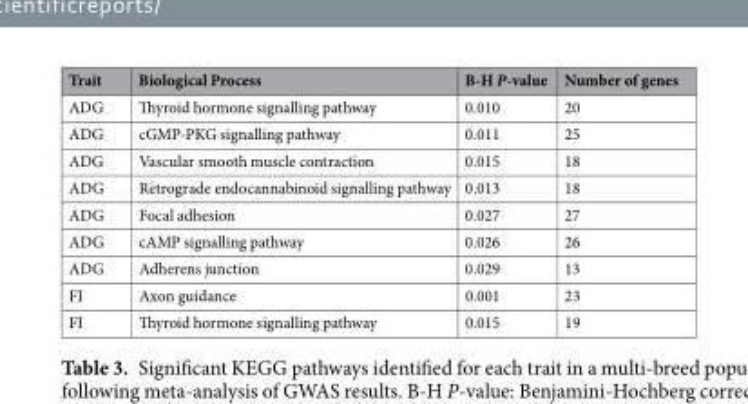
<table><thead><tr><td>Trait</td><td>Biological Process</td><td>B-H P-value</td><td>Number of genes</td></tr></thead><tbody><tr><td>ADG</td><td>Thyroid hormone signalling pathway</td><td>0.010</td><td>20</td></tr><tr><td>ADG</td><td>cGMP-PKG signalling pathway</td><td>0.011</td><td>25</td></tr><tr><td>ADG</td><td>Vascular smooth muscle contraction</td><td>0.015</td><td>18</td></tr><tr><td>ADG</td><td>Retrograde endocannabinoid signalling pathway</td><td>0.013</td><td>18</td></tr><tr><td>ADG</td><td>Focal adhesion</td><td>0.027</td><td>27</td></tr><tr><td>ADG</td><td>cAMP signalling pathway</td><td>0.026</td><td>26</td></tr><tr><td>ADG</td><td>Adherens junction</td><td>0.029</td><td>13</td></tr><tr><td>FI</td><td>Axon guidance</td><td>0.001</td><td>23</td></tr><tr><td>FI</td><td>Thyroid hormone signalling pathway</td><td>0.015</td><td>19</td></tr></tbody></table>